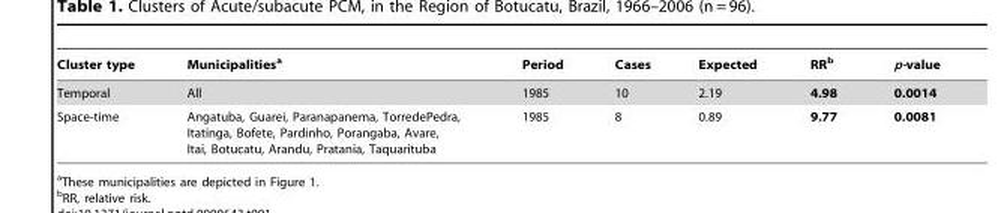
<table><thead><tr><td>Cluster type</td><td>Municipalities<sup>a</sup></td><td>Period</td><td>Cases</td><td>Expected</td><td>RR<sup>b</sup></td><td>p-value</td></tr></thead><tbody><tr><td>Temporal</td><td>All</td><td>1985</td><td>10</td><td>2.19</td><td>4.98</td><td>0.0014</td></tr><tr><td>Space-time</td><td>Angatuba, Guarei, Paranapanema, TorredePedra, Itatinga, Bofete, Pardinho, Porangaba, Avare, Itai, Botucatu, Arandu, Pratania, Taquarituba</td><td>1985</td><td>8</td><td>0.89</td><td>9.77</td><td>0.0081</td></tr></tbody></table>